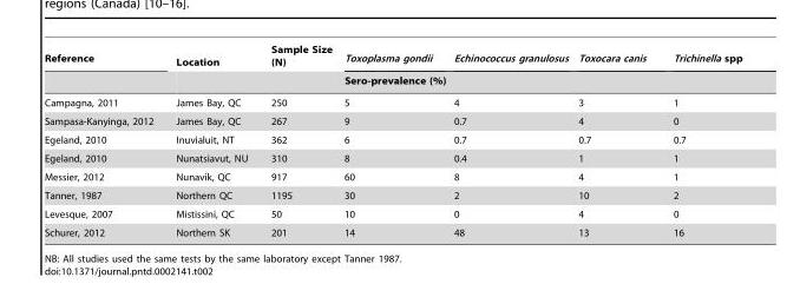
<table><thead><tr><td rowspan="2">Reference</td><td rowspan="2">Location</td><td rowspan="2">Sample Size (N)</td><td>Toxoplasma gondii</td><td>Echinococcus granulosus</td><td>Toxocara canis</td><td>Trichinella spp</td></tr><tr><td colspan="4">Sero-prevalence (%)</td></tr></thead><tbody><tr><td>Campagna, 2011</td><td>James Bay, QC</td><td>250</td><td>5</td><td>4</td><td>3</td><td>1</td></tr><tr><td>Sampasa-Kanyinga, 2012</td><td>James Bay, QC</td><td>267</td><td>9</td><td>0.7</td><td>4</td><td>0</td></tr><tr><td>Egeland, 2010</td><td>Inuvialuit, NT</td><td>362</td><td>6</td><td>0.7</td><td>0.7</td><td>0.7</td></tr><tr><td>Egeland, 2010</td><td>Nunatsiavut, NU</td><td>310</td><td>8</td><td>0.4</td><td>1</td><td>1</td></tr><tr><td>Messier, 2012</td><td>Nunavik, QC</td><td>917</td><td>60</td><td>8</td><td>4</td><td>1</td></tr><tr><td>Tanner, 1987</td><td>Northern QC</td><td>1195</td><td>30</td><td>2</td><td>10</td><td>2</td></tr><tr><td>Levesque, 2007</td><td>Mistissini, QC</td><td>50</td><td>10</td><td>0</td><td>4</td><td>0</td></tr><tr><td>Schurer, 2012</td><td>Northern SK</td><td>201</td><td>14</td><td>48</td><td>13</td><td>16</td></tr></tbody></table>